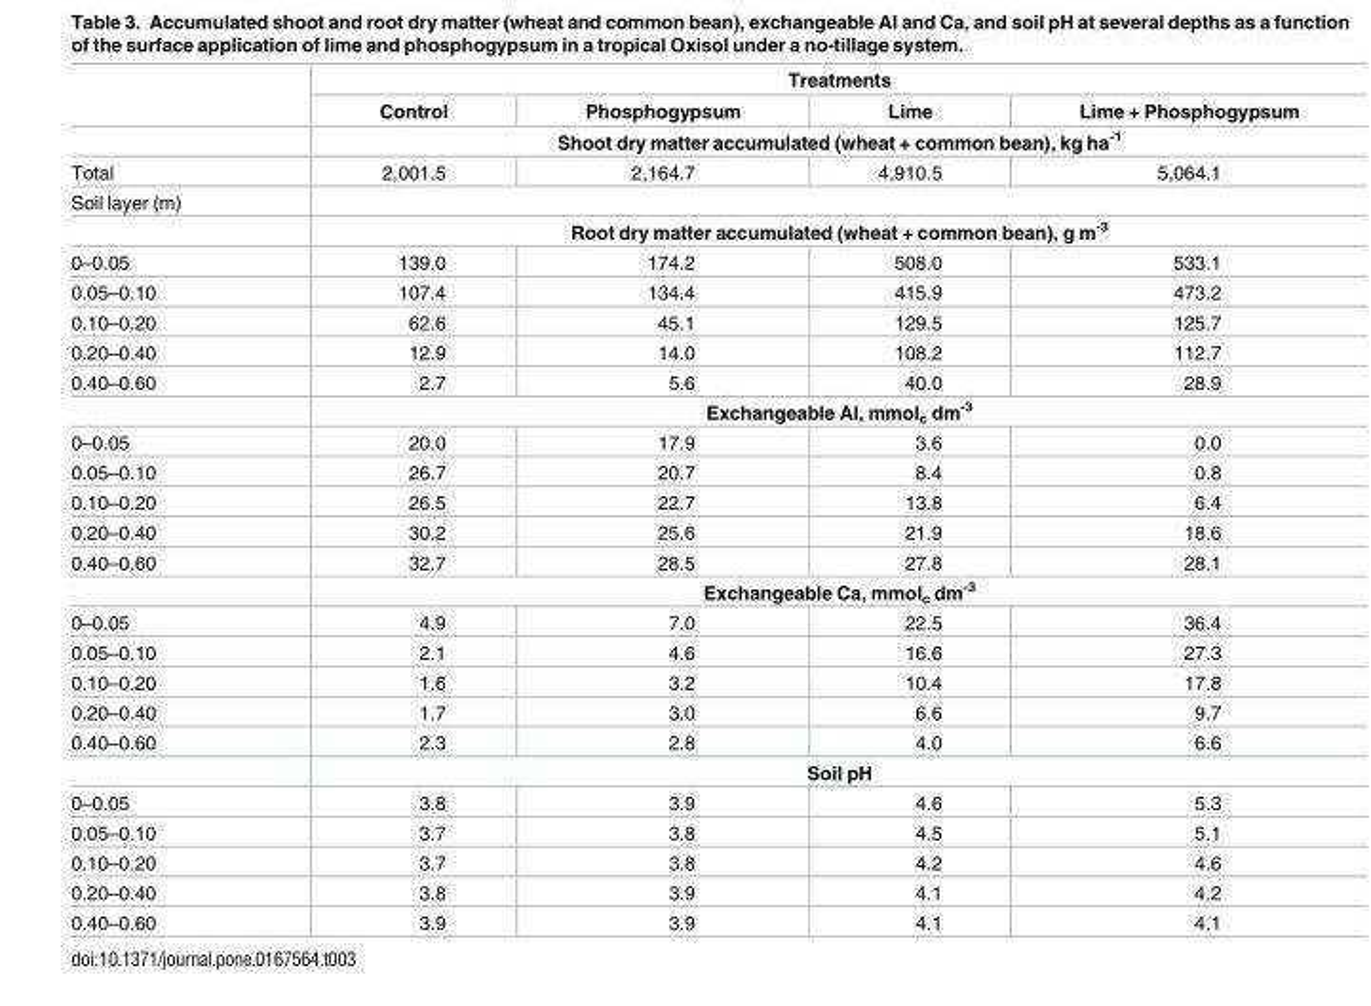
<table><thead><tr><td rowspan="2"></td><td colspan="4">Treatments</td></tr><tr><td>Control</td><td>Phosphogypsum</td><td>Lime</td><td>Lime + Phosphogypsum</td></tr></thead><tbody><tr><td></td><td colspan="4">Shoot dry matter accumulated (wheat + common bean), kg ha<sup>-1</sup></td></tr><tr><td>Total</td><td>2,001.5</td><td>2,164.7</td><td>4,910.5</td><td>5,064.1</td></tr><tr><td colspan="5">Soil layer (m)</td></tr><tr><td></td><td colspan="4">Root dry matter accumulated (wheat + common bean), g m<sup>-3</sup></td></tr><tr><td>0–0.05</td><td>139.0</td><td>174.2</td><td>508.0</td><td>533.1</td></tr><tr><td>0.05–0.10</td><td>107.4</td><td>134.4</td><td>415.9</td><td>473.2</td></tr><tr><td>0.10–0.20</td><td>62.6</td><td>45.1</td><td>129.5</td><td>125.7</td></tr><tr><td>0.20–0.40</td><td>12.9</td><td>14.0</td><td>108.2</td><td>112.7</td></tr><tr><td rowspan="2">0.40–0.60</td><td>2.7</td><td>5.6</td><td>40.0</td><td>28.9</td></tr><tr><td colspan="4">Exchangeable Al, mmol<sub>c</sub> dm<sup>-3</sup></td></tr><tr><td>0–0.05</td><td>20.0</td><td>17.9</td><td>3.6</td><td>0.0</td></tr><tr><td>0.05–0.10</td><td>26.7</td><td>20.7</td><td>8.4</td><td>0.8</td></tr><tr><td>0.10–0.20</td><td>26.5</td><td>22.7</td><td>13.8</td><td>6.4</td></tr><tr><td>0.20–0.40</td><td>30.2</td><td>25.6</td><td>21.9</td><td>18.6</td></tr><tr><td rowspan="2">0.40–0.60</td><td>32.7</td><td>28.5</td><td>27.8</td><td>28.1</td></tr><tr><td colspan="4">Exchangeable Ca, mmol<sub>c</sub> dm<sup>-3</sup></td></tr><tr><td>0–0.05</td><td>4.9</td><td>7.0</td><td>22.5</td><td>36.4</td></tr><tr><td>0.05–0.10</td><td>2.1</td><td>4.6</td><td>16.6</td><td>27.3</td></tr><tr><td>0.10–0.20</td><td>1.6</td><td>3.2</td><td>10.4</td><td>17.8</td></tr><tr><td>0.20–0.40</td><td>1.7</td><td>3.0</td><td>6.6</td><td>9.7</td></tr><tr><td rowspan="2">0.40–0.60</td><td>2.3</td><td>2.8</td><td>4.0</td><td>6.6</td></tr><tr><td colspan="4">Soil pH</td></tr><tr><td>0–0.05</td><td>3.8</td><td>3.9</td><td>4.6</td><td>5.3</td></tr><tr><td>0.05–0.10</td><td>3.7</td><td>3.8</td><td>4.5</td><td>5.1</td></tr><tr><td>0.10–0.20</td><td>3.7</td><td>3.8</td><td>4.2</td><td>4.6</td></tr><tr><td>0.20–0.40</td><td>3.8</td><td>3.9</td><td>4.1</td><td>4.2</td></tr><tr><td>0.40–0.60</td><td>3.9</td><td>3.9</td><td>4.1</td><td>4.1</td></tr></tbody></table>